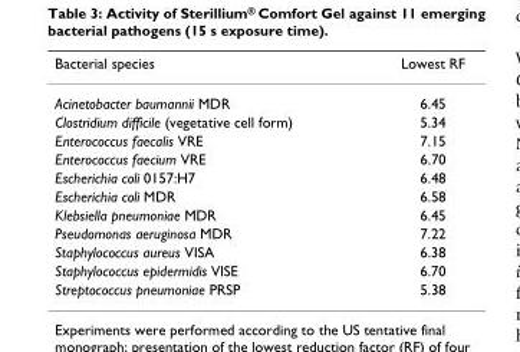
<table><thead><tr><td>Bacterial species</td><td>Lowest RF</td></tr></thead><tbody><tr><td>Acinetobacter baumannii MDR</td><td>6.45</td></tr><tr><td>Clostridium difficile (vegetative cell form)</td><td>5.34</td></tr><tr><td>Enterococcus faecalis VRE</td><td>7.15</td></tr><tr><td>Enterococcus faecium VRE</td><td>6.70</td></tr><tr><td>Escherichia coli 0157:H7</td><td>6.48</td></tr><tr><td>Escherichia coli MDR</td><td>6.58</td></tr><tr><td>Klebsiella pneumoniae MDR</td><td>6.45</td></tr><tr><td>Pseudomonas aeruginosa MDR</td><td>7.22</td></tr><tr><td>Staphylococcus aureus VISA</td><td>6.38</td></tr><tr><td>Staphylococcus epidermidis VISE</td><td>6.70</td></tr><tr><td>Streptococcus pneumoniae PRSP</td><td>5.38</td></tr></tbody></table>